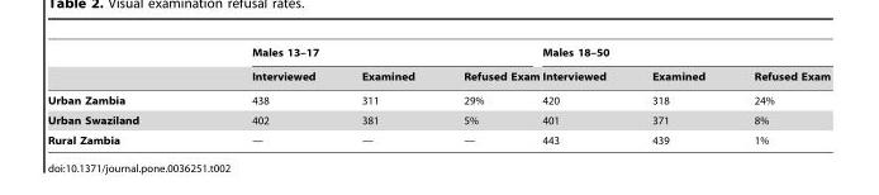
<table><thead><tr><td rowspan="2"></td><td colspan="3">Males 13–17</td><td colspan="3">Males 18–50</td></tr><tr><td>Interviewed</td><td>Examined</td><td>Refused Exam</td><td>Interviewed</td><td>Examined</td><td>Refused Exam</td></tr></thead><tbody><tr><td>Urban Zambia</td><td>438</td><td>311</td><td>29%</td><td>420</td><td>318</td><td>24%</td></tr><tr><td>Urban Swaziland</td><td>402</td><td>381</td><td>5%</td><td>401</td><td>371</td><td>8%</td></tr><tr><td>Rural Zambia</td><td>—</td><td>—</td><td>—</td><td>443</td><td>439</td><td>1%</td></tr></tbody></table>